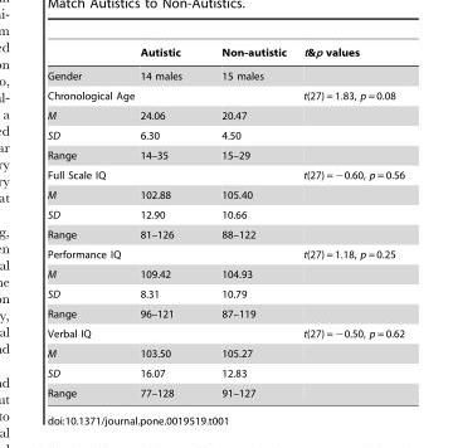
<table><thead><tr><td></td><td>Autistic</td><td>Non-autistic</td><td>t&amp;p values</td></tr></thead><tbody><tr><td>Gender</td><td>14 males</td><td>15 males</td><td></td></tr><tr><td>Chronological Age</td><td></td><td></td><td>t(27) = 1.83, p = 0.08</td></tr><tr><td>M</td><td>24.06</td><td>20.47</td><td></td></tr><tr><td>SD</td><td>6.30</td><td>4.50</td><td></td></tr><tr><td>Range</td><td>14–35</td><td>15–29</td><td></td></tr><tr><td>Full Scale IQ</td><td></td><td></td><td>t(27) = −0.60, p = 0.56</td></tr><tr><td>M</td><td>102.88</td><td>105.40</td><td></td></tr><tr><td>SD</td><td>12.90</td><td>10.66</td><td></td></tr><tr><td>Range</td><td>81–126</td><td>88–122</td><td></td></tr><tr><td>Performance IQ</td><td></td><td></td><td>t(27) = 1.18, p = 0.25</td></tr><tr><td>M</td><td>109.42</td><td>104.93</td><td></td></tr><tr><td>SD</td><td>8.31</td><td>10.79</td><td></td></tr><tr><td>Range</td><td>96–121</td><td>87–119</td><td></td></tr><tr><td>Verbal IQ</td><td></td><td></td><td>t(27) = −0.50, p = 0.62</td></tr><tr><td>M</td><td>103.50</td><td>105.27</td><td></td></tr><tr><td>SD</td><td>16.07</td><td>12.83</td><td></td></tr><tr><td>Range</td><td>77–128</td><td>91–127</td><td></td></tr></tbody></table>